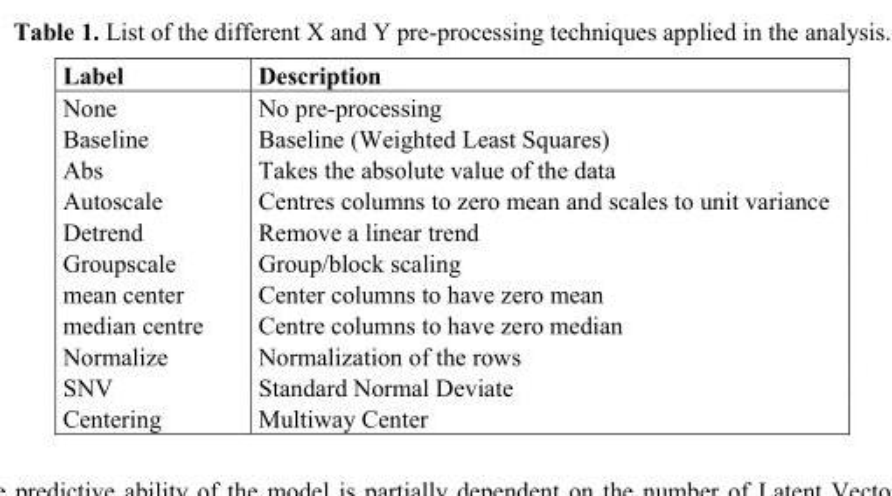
<table><thead><tr><td>Label</td><td>Description</td></tr></thead><tbody><tr><td>None</td><td>No pre-processing</td></tr><tr><td>Baseline</td><td>Baseline (Weighted Least Squares)</td></tr><tr><td>Abs</td><td>Takes the absolute value of the data</td></tr><tr><td>Autoscale</td><td>Centres columns to zero mean and scales to unit variance</td></tr><tr><td>Detrend</td><td>Remove a linear trend</td></tr><tr><td>Groupscale</td><td>Group/block scaling</td></tr><tr><td>mean center</td><td>Center columns to have zero mean</td></tr><tr><td>median centre</td><td>Centre columns to have zero median</td></tr><tr><td>Normalize</td><td>Normalization of the rows</td></tr><tr><td>SNV</td><td>Standard Normal Deviate</td></tr><tr><td>Centering</td><td>Multiway Center</td></tr></tbody></table>